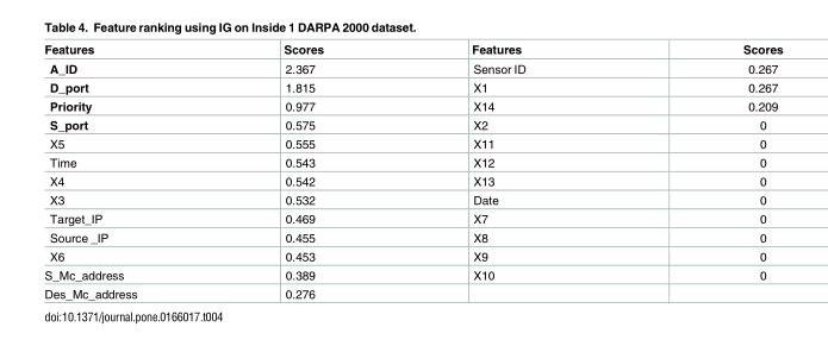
<table><thead><tr><td>Features</td><td>Scores</td><td>Features</td><td>Scores</td></tr></thead><tbody><tr><td>A_ID</td><td>2.367</td><td>Sensor ID</td><td>0.267</td></tr><tr><td>D_port</td><td>1.815</td><td>X1</td><td>0.267</td></tr><tr><td>Priority</td><td>0.977</td><td>X14</td><td>0.209</td></tr><tr><td>S_port</td><td>0.575</td><td>X2</td><td>0</td></tr><tr><td>X5</td><td>0.555</td><td>X11</td><td>0</td></tr><tr><td>Time</td><td>0.543</td><td>X12</td><td>0</td></tr><tr><td>X4</td><td>0.542</td><td>X13</td><td>0</td></tr><tr><td>X3</td><td>0.532</td><td>Date</td><td>0</td></tr><tr><td>Target_IP</td><td>0.469</td><td>X7</td><td>0</td></tr><tr><td>Source _IP</td><td>0.455</td><td>X8</td><td>0</td></tr><tr><td>X6</td><td>0.453</td><td>X9</td><td>0</td></tr><tr><td>S_Mc_address</td><td>0.389</td><td>X10</td><td>0</td></tr><tr><td>Des_Mc_address</td><td>0.276</td><td></td><td></td></tr></tbody></table>